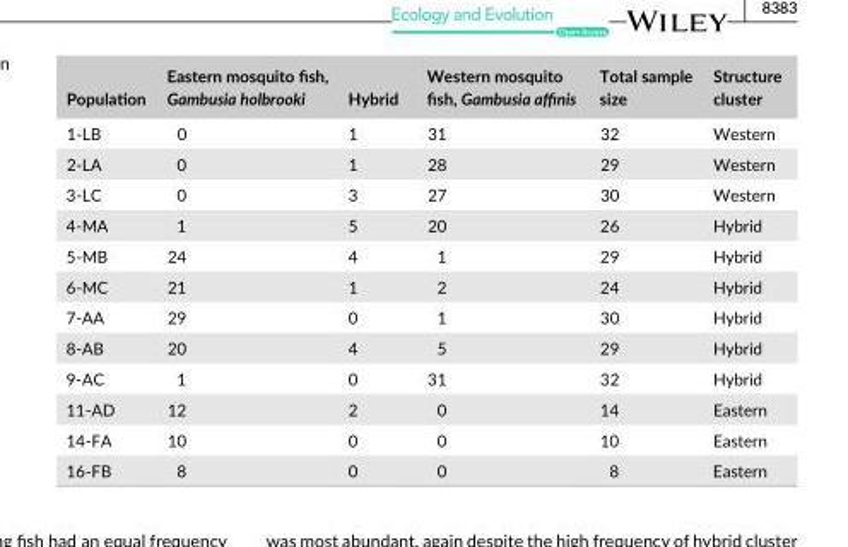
<table><thead><tr><td>Population</td><td>Eastern mosquito fish, Gambusia holbrooki</td><td>Hybrid</td><td>Western mosquito fish, Gambusia affinis</td><td>Total sample size</td><td>Structure cluster</td></tr></thead><tbody><tr><td>1- LB</td><td>0</td><td>1</td><td>31</td><td>32</td><td>Western</td></tr><tr><td>2- LA</td><td>0</td><td>1</td><td>28</td><td>29</td><td>Western</td></tr><tr><td>3- LC</td><td>0</td><td>3</td><td>27</td><td>30</td><td>Western</td></tr><tr><td>4- MA</td><td>1</td><td>5</td><td>20</td><td>26</td><td>Hybrid</td></tr><tr><td>5- MB</td><td>24</td><td>4</td><td>1</td><td>29</td><td>Hybrid</td></tr><tr><td>6- MC</td><td>21</td><td>1</td><td>2</td><td>24</td><td>Hybrid</td></tr><tr><td>7- AA</td><td>29</td><td>0</td><td>1</td><td>30</td><td>Hybrid</td></tr><tr><td>8- AB</td><td>20</td><td>4</td><td>5</td><td>29</td><td>Hybrid</td></tr><tr><td>9- AC</td><td>1</td><td>0</td><td>31</td><td>32</td><td>Hybrid</td></tr><tr><td>11- AD</td><td>12</td><td>2</td><td>0</td><td>14</td><td>Eastern</td></tr><tr><td>14- FA</td><td>10</td><td>0</td><td>0</td><td>10</td><td>Eastern</td></tr><tr><td>16- FB</td><td>8</td><td>0</td><td>0</td><td>8</td><td>Eastern</td></tr></tbody></table>